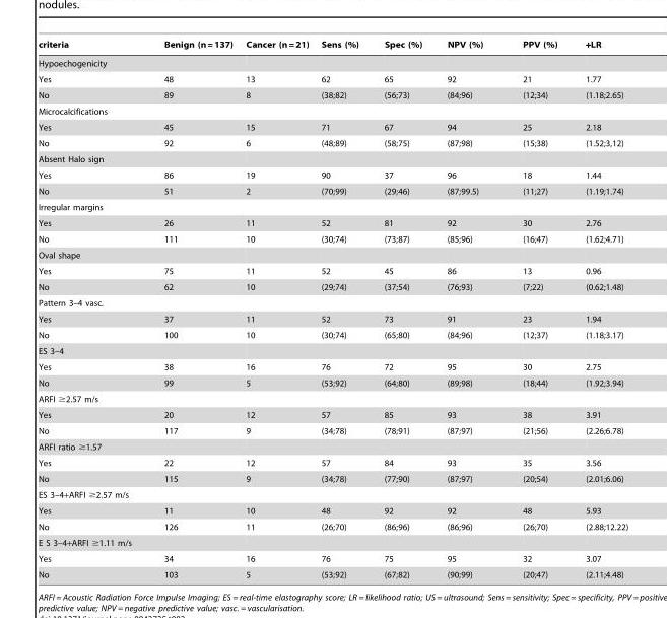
<table><thead><tr><td>criteria</td><td>Benign (n = 137)</td><td>Cancer (n = 21)</td><td>Sens (%)</td><td>Spec (%)</td><td>NPV (%)</td><td>PPV (%)</td><td>+LR</td></tr></thead><tbody><tr><td colspan="8">Hypoechogenicity</td></tr><tr><td>Yes</td><td>48</td><td>13</td><td>62</td><td>65</td><td>92</td><td>21</td><td>1.77</td></tr><tr><td>No</td><td>89</td><td>8</td><td>(38;82)</td><td>(56;73)</td><td>(84;96)</td><td>(12;34)</td><td>(1.18;2.65)</td></tr><tr><td colspan="8">Microcalcifications</td></tr><tr><td>Yes</td><td>45</td><td>15</td><td>71</td><td>67</td><td>94</td><td>25</td><td>2.18</td></tr><tr><td>No</td><td>92</td><td>6</td><td>(48;89)</td><td>(58;75)</td><td>(87;98)</td><td>(15;38)</td><td>(1.52;3,12)</td></tr><tr><td colspan="8">Absent Halo sign</td></tr><tr><td>Yes</td><td>86</td><td>19</td><td>90</td><td>37</td><td>96</td><td>18</td><td>1.44</td></tr><tr><td>No</td><td>51</td><td>2</td><td>(70;99)</td><td>(29;46)</td><td>(87;99.5)</td><td>(11;27)</td><td>(1.19;1.74)</td></tr><tr><td colspan="8">Irregular margins</td></tr><tr><td>Yes</td><td>26</td><td>11</td><td>52</td><td>81</td><td>92</td><td>30</td><td>2.76</td></tr><tr><td>No</td><td>111</td><td>10</td><td>(30;74)</td><td>(73;87)</td><td>(85;96)</td><td>(16;47)</td><td>(1.62;4.71)</td></tr><tr><td colspan="8">Oval shape</td></tr><tr><td>Yes</td><td>75</td><td>11</td><td>52</td><td>45</td><td>86</td><td>13</td><td>0.96</td></tr><tr><td>No</td><td>62</td><td>10</td><td>(29;74)</td><td>(37;54)</td><td>(76;93)</td><td>(7;22)</td><td>(0.62;1.48)</td></tr><tr><td colspan="8">Pattern 3–4 vasc.</td></tr><tr><td>Yes</td><td>37</td><td>11</td><td>52</td><td>73</td><td>91</td><td>23</td><td>1.94</td></tr><tr><td>No</td><td>100</td><td>10</td><td>(30;74)</td><td>(65;80)</td><td>(84;96)</td><td>(12;37)</td><td>(1.18;3.17)</td></tr><tr><td colspan="8">ES 3–4</td></tr><tr><td>Yes</td><td>38</td><td>16</td><td>76</td><td>72</td><td>95</td><td>30</td><td>2.75</td></tr><tr><td>No</td><td>99</td><td>5</td><td>(53;92)</td><td>(64;80)</td><td>(89;98)</td><td>(18;44)</td><td>(1.92;3.94)</td></tr><tr><td colspan="8">ARFI ≥2.57 m/s</td></tr><tr><td>Yes</td><td>20</td><td>12</td><td>57</td><td>85</td><td>93</td><td>38</td><td>3.91</td></tr><tr><td>No</td><td>117</td><td>9</td><td>(34;78)</td><td>(78;91)</td><td>(87;97)</td><td>(21;56)</td><td>(2.26;6.78)</td></tr><tr><td colspan="8">ARFI ratio ≥1.57</td></tr><tr><td>Yes</td><td>22</td><td>12</td><td>57</td><td>84</td><td>93</td><td>35</td><td>3.56</td></tr><tr><td>No</td><td>115</td><td>9</td><td>(34;78)</td><td>(77;90)</td><td>(87;97)</td><td>(20;54)</td><td>(2.01;6.06)</td></tr><tr><td colspan="8">ES 3–4+ARFI ≥2.57 m/s</td></tr><tr><td>Yes</td><td>11</td><td>10</td><td>48</td><td>92</td><td>92</td><td>48</td><td>5.93</td></tr><tr><td>No</td><td>126</td><td>11</td><td>(26;70)</td><td>(86;96)</td><td>(86;96)</td><td>(26;70)</td><td>(2.88;12.22)</td></tr><tr><td colspan="8">E S 3–4+ARFI ≥1.11 m/s</td></tr><tr><td>Yes</td><td>34</td><td>16</td><td>76</td><td>75</td><td>95</td><td>32</td><td>3.07</td></tr><tr><td>No</td><td>103</td><td>5</td><td>(53;92)</td><td>(67;82)</td><td>(90;99)</td><td>(20;47)</td><td>(2.11;4.48)</td></tr></tbody></table>